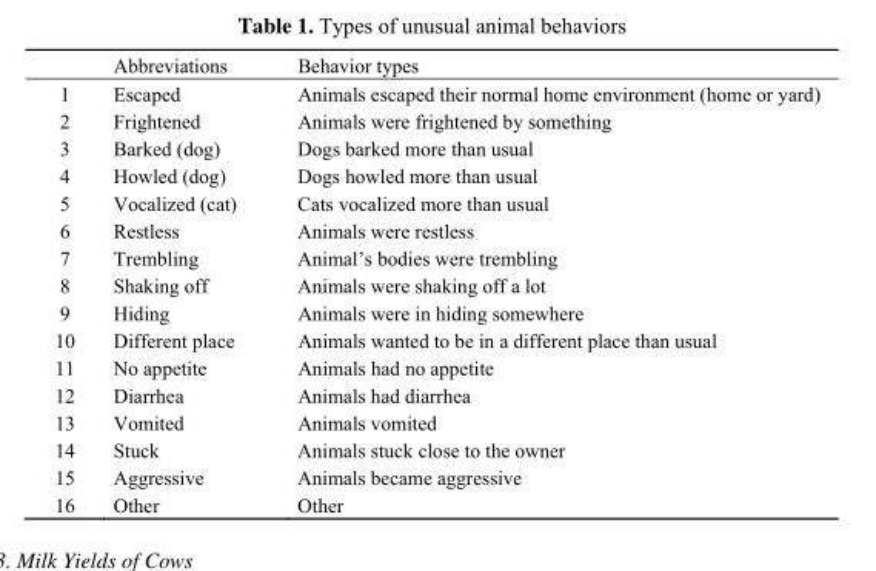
<table><thead><tr><td></td><td>Abbreviations</td><td>Behavior types</td></tr></thead><tbody><tr><td>1</td><td>Escaped</td><td>Animals escaped their normal home environment (home or yard)</td></tr><tr><td>2</td><td>Frightened</td><td>Animals were frightened by something</td></tr><tr><td>3</td><td>Barked (dog)</td><td>Dogs barked more than usual</td></tr><tr><td>4</td><td>Howled (dog)</td><td>Dogs howled more than usual</td></tr><tr><td>5</td><td>Vocalized (cat)</td><td>Cats vocalized more than usual</td></tr><tr><td>6</td><td>Restless</td><td>Animals were restless</td></tr><tr><td>7</td><td>Trembling</td><td>Animal’s bodies were trembling</td></tr><tr><td>8</td><td>Shaking off</td><td>Animals were shaking off a lot</td></tr><tr><td>9</td><td>Hiding</td><td>Animals were in hiding somewhere</td></tr><tr><td>10</td><td>Different place</td><td>Animals wanted to be in a different place than usual</td></tr><tr><td>11</td><td>No appetite</td><td>Animals had no appetite</td></tr><tr><td>12</td><td>Diarrhea</td><td>Animals had diarrhea</td></tr><tr><td>13</td><td>Vomited</td><td>Animals vomited</td></tr><tr><td>14</td><td>Stuck</td><td>Animals stuck close to the owner</td></tr><tr><td>15</td><td>Aggressive</td><td>Animals became aggressive</td></tr><tr><td>16</td><td>Other</td><td>Other</td></tr></tbody></table>